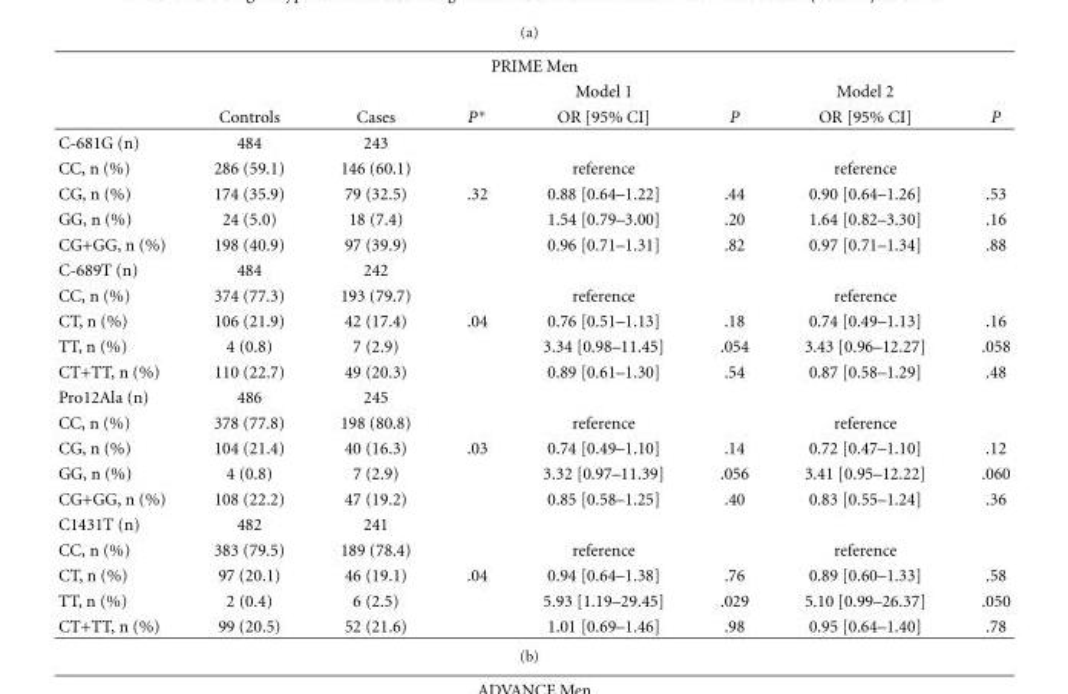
<table><thead><tr><td colspan="8">PRIME Men</td></tr><tr><td rowspan="2"></td><td rowspan="2">Controls</td><td rowspan="2">Cases</td><td rowspan="2">P∗</td><td rowspan="2">Model 1 OR [95% CI]</td><td rowspan="2">P</td><td rowspan="2">Model 2 OR [95% CI]</td><td rowspan="2">P</td></tr><tr></tr></thead><tbody><tr><td>C-681G (n)</td><td>484</td><td>243</td><td></td><td></td><td></td><td></td><td></td></tr><tr><td>CC, n (%)</td><td>286 (59.1)</td><td>146 (60.1)</td><td></td><td>reference</td><td></td><td>reference</td><td></td></tr><tr><td>CG, n (%)</td><td>174 (35.9)</td><td>79 (32.5)</td><td>.32</td><td>0.88 [0.64–1.22]</td><td>.44</td><td>0.90 [0.64–1.26]</td><td>.53</td></tr><tr><td>GG, n (%)</td><td>24 (5.0)</td><td>18 (7.4)</td><td></td><td>1.54 [0.79–3.00]</td><td>.20</td><td>1.64 [0.82–3.30]</td><td>.16</td></tr><tr><td>CG+GG, n (%)</td><td>198 (40.9)</td><td>97 (39.9)</td><td></td><td>0.96 [0.71–1.31]</td><td>.82</td><td>0.97 [0.71–1.34]</td><td>.88</td></tr><tr><td>C-689T (n)</td><td>484</td><td>242</td><td></td><td></td><td></td><td></td><td></td></tr><tr><td>CC, n (%)</td><td>374 (77.3)</td><td>193 (79.7)</td><td></td><td>reference</td><td></td><td>reference</td><td></td></tr><tr><td>CT, n (%)</td><td>106 (21.9)</td><td>42 (17.4)</td><td>.04</td><td>0.76 [0.51–1.13]</td><td>.18</td><td>0.74 [0.49–1.13]</td><td>.16</td></tr><tr><td>TT, n (%)</td><td>4 (0.8)</td><td>7 (2.9)</td><td></td><td>3.34 [0.98–11.45]</td><td>.054</td><td>3.43 [0.96–12.27]</td><td>.058</td></tr><tr><td>CT+TT, n (%)</td><td>110 (22.7)</td><td>49 (20.3)</td><td></td><td>0.89 [0.61–1.30]</td><td>.54</td><td>0.87 [0.58–1.29]</td><td>.48</td></tr><tr><td>Pro12Ala (n)</td><td>486</td><td>245</td><td></td><td></td><td></td><td></td><td></td></tr><tr><td>CC, n (%)</td><td>378 (77.8)</td><td>198 (80.8)</td><td></td><td>reference</td><td></td><td>reference</td><td></td></tr><tr><td>CG, n (%)</td><td>104 (21.4)</td><td>40 (16.3)</td><td>.03</td><td>0.74 [0.49–1.10]</td><td>.14</td><td>0.72 [0.47–1.10]</td><td>.12</td></tr><tr><td>GG, n (%)</td><td>4 (0.8)</td><td>7 (2.9)</td><td></td><td>3.32 [0.97–11.39]</td><td>.056</td><td>3.41 [0.95–12.22]</td><td>.060</td></tr><tr><td>CG+GG, n (%)</td><td>108 (22.2)</td><td>47 (19.2)</td><td></td><td>0.85 [0.58–1.25]</td><td>.40</td><td>0.83 [0.55–1.24]</td><td>.36</td></tr><tr><td>C1431T (n)</td><td>482</td><td>241</td><td></td><td></td><td></td><td></td><td></td></tr><tr><td>CC, n (%)</td><td>383 (79.5)</td><td>189 (78.4)</td><td></td><td>reference</td><td></td><td>reference</td><td></td></tr><tr><td>CT, n (%)</td><td>97 (20.1)</td><td>46 (19.1)</td><td>.04</td><td>0.94 [0.64–1.38]</td><td>.76</td><td>0.89 [0.60–1.33]</td><td>.58</td></tr><tr><td>TT, n (%)</td><td>2 (0.4)</td><td>6 (2.5)</td><td></td><td>5.93 [1.19–29.45]</td><td>.029</td><td>5.10 [0.99–26.37]</td><td>.050</td></tr><tr><td>CT+TT, n (%)</td><td>99 (20.5)</td><td>52 (21.6)</td><td></td><td>1.01 [0.69–1.46]</td><td>.98</td><td>0.95 [0.64–1.40]</td><td>.78</td></tr></tbody></table>